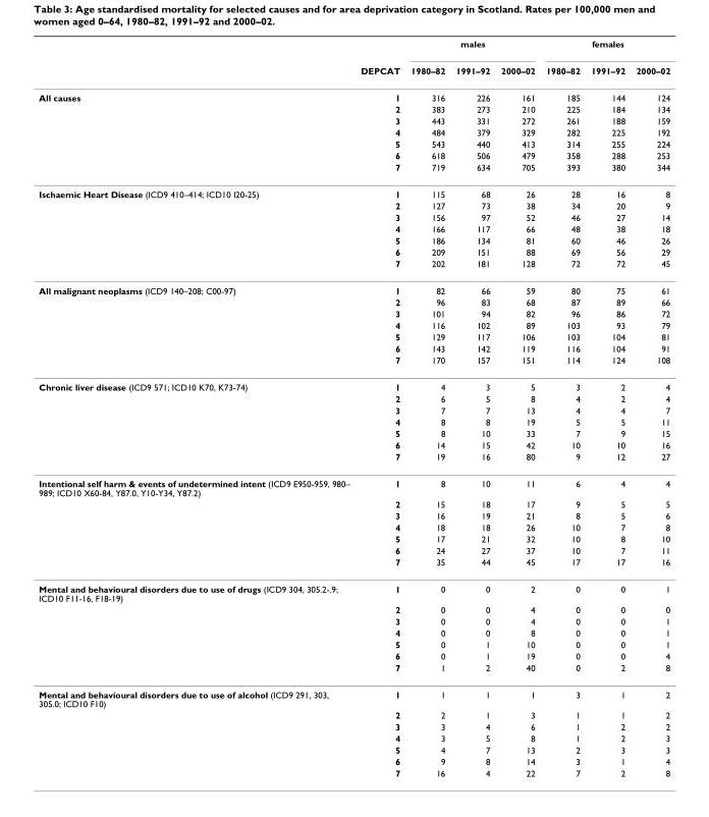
<table><thead><tr><td rowspan="2"></td><td rowspan="2">DEPCAT</td><td colspan="3">males</td><td colspan="3">females</td></tr><tr><td>1980–82</td><td>1991–92</td><td>2000–02</td><td>1980–82</td><td>1991–92</td><td>2000–02</td></tr></thead><tbody><tr><td rowspan="7">All causes</td><td>1</td><td>316</td><td>226</td><td>161</td><td>185</td><td>144</td><td>124</td></tr><tr><td>2</td><td>383</td><td>273</td><td>210</td><td>225</td><td>184</td><td>134</td></tr><tr><td>3</td><td>443</td><td>331</td><td>272</td><td>261</td><td>188</td><td>159</td></tr><tr><td>4</td><td>484</td><td>379</td><td>329</td><td>282</td><td>225</td><td>192</td></tr><tr><td>5</td><td>543</td><td>440</td><td>413</td><td>314</td><td>255</td><td>224</td></tr><tr><td>6</td><td>618</td><td>506</td><td>479</td><td>358</td><td>288</td><td>253</td></tr><tr><td>7</td><td>719</td><td>634</td><td>705</td><td>393</td><td>380</td><td>344</td></tr><tr><td rowspan="7">Ischaemic Heart Disease (ICD9 410–414; ICD10 I20-25)</td><td>1</td><td>115</td><td>68</td><td>26</td><td>28</td><td>16</td><td>8</td></tr><tr><td>2</td><td>127</td><td>73</td><td>38</td><td>34</td><td>20</td><td>9</td></tr><tr><td>3</td><td>156</td><td>97</td><td>52</td><td>46</td><td>27</td><td>14</td></tr><tr><td>4</td><td>166</td><td>117</td><td>66</td><td>48</td><td>38</td><td>18</td></tr><tr><td>5</td><td>186</td><td>134</td><td>81</td><td>60</td><td>46</td><td>26</td></tr><tr><td>6</td><td>209</td><td>151</td><td>88</td><td>69</td><td>56</td><td>29</td></tr><tr><td>7</td><td>202</td><td>181</td><td>128</td><td>72</td><td>72</td><td>45</td></tr><tr><td rowspan="7">All malignant neoplasms (ICD9 140–208; C00-97)</td><td>1</td><td>82</td><td>66</td><td>59</td><td>80</td><td>75</td><td>61</td></tr><tr><td>2</td><td>96</td><td>83</td><td>68</td><td>87</td><td>89</td><td>66</td></tr><tr><td>3</td><td>101</td><td>94</td><td>82</td><td>96</td><td>86</td><td>72</td></tr><tr><td>4</td><td>116</td><td>102</td><td>89</td><td>103</td><td>93</td><td>79</td></tr><tr><td>5</td><td>129</td><td>117</td><td>106</td><td>103</td><td>104</td><td>81</td></tr><tr><td>6</td><td>143</td><td>142</td><td>119</td><td>116</td><td>104</td><td>91</td></tr><tr><td>7</td><td>170</td><td>157</td><td>151</td><td>114</td><td>124</td><td>108</td></tr><tr><td rowspan="7">Chronic liver disease (ICD9 571; ICD10 K70, K73-74)</td><td>1</td><td>4</td><td>3</td><td>5</td><td>3</td><td>2</td><td>4</td></tr><tr><td>2</td><td>6</td><td>5</td><td>8</td><td>4</td><td>2</td><td>4</td></tr><tr><td>3</td><td>7</td><td>7</td><td>13</td><td>4</td><td>4</td><td>7</td></tr><tr><td>4</td><td>8</td><td>8</td><td>19</td><td>5</td><td>5</td><td>11</td></tr><tr><td>5</td><td>8</td><td>10</td><td>33</td><td>7</td><td>9</td><td>15</td></tr><tr><td>6</td><td>14</td><td>15</td><td>42</td><td>10</td><td>10</td><td>16</td></tr><tr><td>7</td><td>19</td><td>16</td><td>80</td><td>9</td><td>12</td><td>27</td></tr><tr><td rowspan="7">Intentional self harm &amp; events of undetermined intent (ICD9 E950-959, 980– 989; ICD10 X60-84, Y87.0, Y10-Y34, Y87.2)</td><td>1</td><td>8</td><td>10</td><td>11</td><td>6</td><td>4</td><td>4</td></tr><tr><td>2</td><td>15</td><td>18</td><td>17</td><td>9</td><td>5</td><td>5</td></tr><tr><td>3</td><td>16</td><td>19</td><td>21</td><td>8</td><td>5</td><td>6</td></tr><tr><td>4</td><td>18</td><td>18</td><td>26</td><td>10</td><td>7</td><td>8</td></tr><tr><td>5</td><td>17</td><td>21</td><td>32</td><td>10</td><td>8</td><td>10</td></tr><tr><td>6</td><td>24</td><td>27</td><td>37</td><td>10</td><td>7</td><td>11</td></tr><tr><td>7</td><td>35</td><td>44</td><td>45</td><td>17</td><td>17</td><td>16</td></tr><tr><td rowspan="7">Mental and behavioural disorders due to use of drugs (ICD9 304, 305.2-.9; ICD10 F11-16, F18-19)</td><td>1</td><td>0</td><td>0</td><td>2</td><td>0</td><td>0</td><td>1</td></tr><tr><td>2</td><td>0</td><td>0</td><td>4</td><td>0</td><td>0</td><td>0</td></tr><tr><td>3</td><td>0</td><td>0</td><td>4</td><td>0</td><td>0</td><td>1</td></tr><tr><td>4</td><td>0</td><td>0</td><td>8</td><td>0</td><td>0</td><td>1</td></tr><tr><td>5</td><td>0</td><td>1</td><td>10</td><td>0</td><td>0</td><td>1</td></tr><tr><td>6</td><td>0</td><td>1</td><td>19</td><td>0</td><td>0</td><td>4</td></tr><tr><td>7</td><td>1</td><td>2</td><td>40</td><td>0</td><td>2</td><td>8</td></tr><tr><td rowspan="7">Mental and behavioural disorders due to use of alcohol (ICD9 291, 303, 305.0; ICD10 F10)</td><td>1</td><td>1</td><td>1</td><td>1</td><td>3</td><td>1</td><td>2</td></tr><tr><td>2</td><td>2</td><td>1</td><td>3</td><td>1</td><td>1</td><td>2</td></tr><tr><td>3</td><td>3</td><td>4</td><td>6</td><td>1</td><td>2</td><td>2</td></tr><tr><td>4</td><td>3</td><td>5</td><td>8</td><td>1</td><td>2</td><td>3</td></tr><tr><td>5</td><td>4</td><td>7</td><td>13</td><td>2</td><td>3</td><td>3</td></tr><tr><td>6</td><td>9</td><td>8</td><td>14</td><td>3</td><td>1</td><td>4</td></tr><tr><td>7</td><td>16</td><td>4</td><td>22</td><td>7</td><td>2</td><td>8</td></tr></tbody></table>